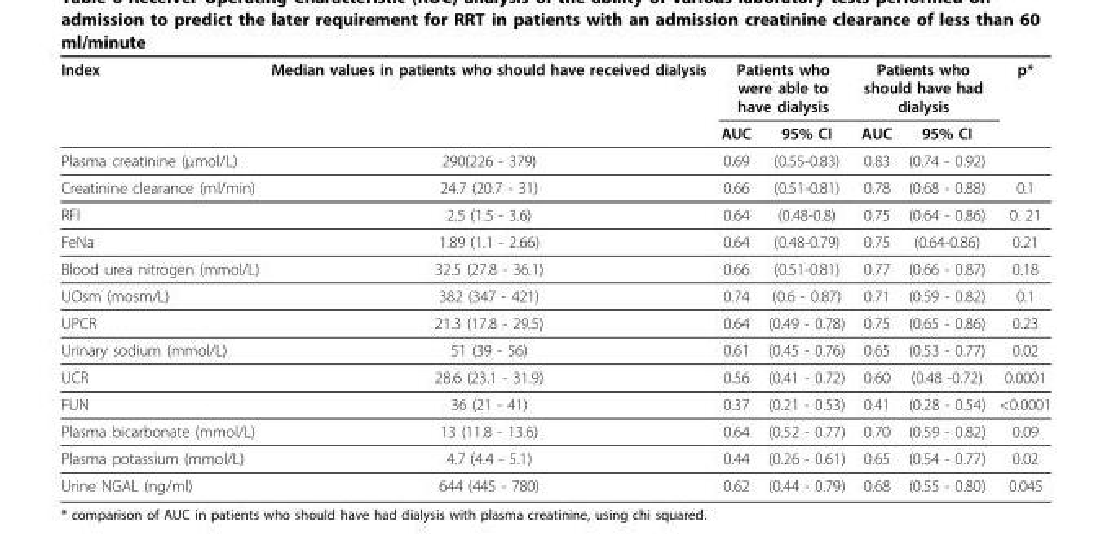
<table><thead><tr><td rowspan="2">Index</td><td rowspan="2">Median values in patients who should have received dialysis</td><td colspan="2">Patients who were able to have dialysis</td><td colspan="2">Patients who should have had dialysis</td><td rowspan="2">p*</td></tr><tr><td>AUC</td><td>95% CI</td><td>AUC</td><td>95% CI</td></tr></thead><tbody><tr><td>Plasma creatinine (μmol/L)</td><td>290(226 - 379)</td><td>0.69</td><td>(0.55-0.83)</td><td>0.83</td><td>(0.74 - 0.92)</td><td></td></tr><tr><td>Creatinine clearance (ml/min)</td><td>24.7 (20.7 - 31)</td><td>0.66</td><td>(0.51-0.81)</td><td>0.78</td><td>(0.68 - 0.88)</td><td>0.1</td></tr><tr><td>RFI</td><td>2.5 (1.5 - 3.6)</td><td>0.64</td><td>(0.48-0.8)</td><td>0.75</td><td>(0.64 - 0.86)</td><td>0. 21</td></tr><tr><td>FeNa</td><td>1.89 (1.1 - 2.66)</td><td>0.64</td><td>(0.48-0.79)</td><td>0.75</td><td>(0.64-0.86)</td><td>0.21</td></tr><tr><td>Blood urea nitrogen (mmol/L)</td><td>32.5 (27.8 - 36.1)</td><td>0.66</td><td>(0.51-0.81)</td><td>0.77</td><td>(0.66 - 0.87)</td><td>0.18</td></tr><tr><td>UOsm (mosm/L)</td><td>382 (347 - 421)</td><td>0.74</td><td>(0.6 - 0.87)</td><td>0.71</td><td>(0.59 - 0.82)</td><td>0.1</td></tr><tr><td>UPCR</td><td>21.3 (17.8 - 29.5)</td><td>0.64</td><td>(0.49 - 0.78)</td><td>0.75</td><td>(0.65 - 0.86)</td><td>0.23</td></tr><tr><td>Urinary sodium (mmol/L)</td><td>51 (39 - 56)</td><td>0.61</td><td>(0.45 - 0.76)</td><td>0.65</td><td>(0.53 - 0.77)</td><td>0.02</td></tr><tr><td>UCR</td><td>28.6 (23.1 - 31.9)</td><td>0.56</td><td>(0.41 - 0.72)</td><td>0.60</td><td>(0.48 -0.72)</td><td>0.0001</td></tr><tr><td>FUN</td><td>36 (21 - 41)</td><td>0.37</td><td>(0.21 - 0.53)</td><td>0.41</td><td>(0.28 - 0.54)</td><td>&lt;0.0001</td></tr><tr><td>Plasma bicarbonate (mmol/L)</td><td>13 (11.8 - 13.6)</td><td>0.64</td><td>(0.52 - 0.77)</td><td>0.70</td><td>(0.59 - 0.82)</td><td>0.09</td></tr><tr><td>Plasma potassium (mmol/L)</td><td>4.7 (4.4 - 5.1)</td><td>0.44</td><td>(0.26 - 0.61)</td><td>0.65</td><td>(0.54 - 0.77)</td><td>0.02</td></tr><tr><td>Urine NGAL (ng/ml)</td><td>644 (445 - 780)</td><td>0.62</td><td>(0.44 - 0.79)</td><td>0.68</td><td>(0.55 - 0.80)</td><td>0.045</td></tr></tbody></table>